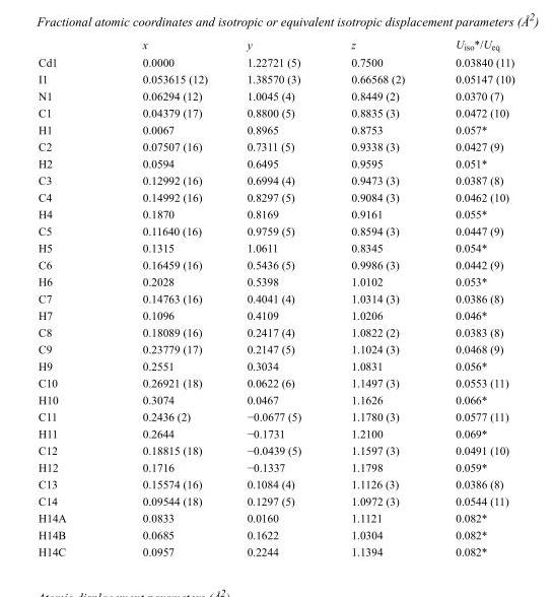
<table><thead><tr><td></td><td>x</td><td>y</td><td>z</td><td>U<sub>iso</sub>*/U<sub>eq</sub></td></tr></thead><tbody><tr><td>Cd1</td><td>0.0000</td><td>1.22721 (5)</td><td>0.7500</td><td>0.03840 (11)</td></tr><tr><td>I1</td><td>0.053615 (12)</td><td>1.38570 (3)</td><td>0.66568 (2)</td><td>0.05147 (10)</td></tr><tr><td>N1</td><td>0.06294 (12)</td><td>1.0045 (4)</td><td>0.8449 (2)</td><td>0.0370 (7)</td></tr><tr><td>C1</td><td>0.04379 (17)</td><td>0.8800 (5)</td><td>0.8835 (3)</td><td>0.0472 (10)</td></tr><tr><td>H1</td><td>0.0067</td><td>0.8965</td><td>0.8753</td><td>0.057*</td></tr><tr><td>C2</td><td>0.07507 (16)</td><td>0.7311 (5)</td><td>0.9338 (3)</td><td>0.0427 (9)</td></tr><tr><td>H2</td><td>0.0594</td><td>0.6495</td><td>0.9595</td><td>0.051*</td></tr><tr><td>C3</td><td>0.12992 (16)</td><td>0.6994 (4)</td><td>0.9473 (3)</td><td>0.0387 (8)</td></tr><tr><td>C4</td><td>0.14992 (16)</td><td>0.8297 (5)</td><td>0.9084 (3)</td><td>0.0462 (10)</td></tr><tr><td>H4</td><td>0.1870</td><td>0.8169</td><td>0.9161</td><td>0.055*</td></tr><tr><td>C5</td><td>0.11640 (16)</td><td>0.9759 (5)</td><td>0.8594 (3)</td><td>0.0447 (9)</td></tr><tr><td>H5</td><td>0.1315</td><td>1.0611</td><td>0.8345</td><td>0.054*</td></tr><tr><td>C6</td><td>0.16459 (16)</td><td>0.5436 (5)</td><td>0.9986 (3)</td><td>0.0442 (9)</td></tr><tr><td>H6</td><td>0.2028</td><td>0.5398</td><td>1.0102</td><td>0.053*</td></tr><tr><td>C7</td><td>0.14763 (16)</td><td>0.4041 (4)</td><td>1.0314 (3)</td><td>0.0386 (8)</td></tr><tr><td>H7</td><td>0.1096</td><td>0.4109</td><td>1.0206</td><td>0.046*</td></tr><tr><td>C8</td><td>0.18089 (16)</td><td>0.2417 (4)</td><td>1.0822 (2)</td><td>0.0383 (8)</td></tr><tr><td>C9</td><td>0.23779 (17)</td><td>0.2147 (5)</td><td>1.1024 (3)</td><td>0.0468 (9)</td></tr><tr><td>H9</td><td>0.2551</td><td>0.3034</td><td>1.0831</td><td>0.056*</td></tr><tr><td>C10</td><td>0.26921 (18)</td><td>0.0622 (6)</td><td>1.1497 (3)</td><td>0.0553 (11)</td></tr><tr><td>H10</td><td>0.3074</td><td>0.0467</td><td>1.1626</td><td>0.066*</td></tr><tr><td>C11</td><td>0.2436 (2)</td><td>−0.0677 (5)</td><td>1.1780 (3)</td><td>0.0577 (11)</td></tr><tr><td>H11</td><td>0.2644</td><td>−0.1731</td><td>1.2100</td><td>0.069*</td></tr><tr><td>C12</td><td>0.18815 (18)</td><td>−0.0439 (5)</td><td>1.1597 (3)</td><td>0.0491 (10)</td></tr><tr><td>H12</td><td>0.1716</td><td>−0.1337</td><td>1.1798</td><td>0.059*</td></tr><tr><td>C13</td><td>0.15574 (16)</td><td>0.1084 (4)</td><td>1.1126 (3)</td><td>0.0386 (8)</td></tr><tr><td>C14</td><td>0.09544 (18)</td><td>0.1297 (5)</td><td>1.0972 (3)</td><td>0.0544 (11)</td></tr><tr><td>H14A</td><td>0.0833</td><td>0.0160</td><td>1.1121</td><td>0.082*</td></tr><tr><td>H14B</td><td>0.0685</td><td>0.1622</td><td>1.0304</td><td>0.082*</td></tr><tr><td>H14C</td><td>0.0957</td><td>0.2244</td><td>1.1394</td><td>0.082*</td></tr></tbody></table>